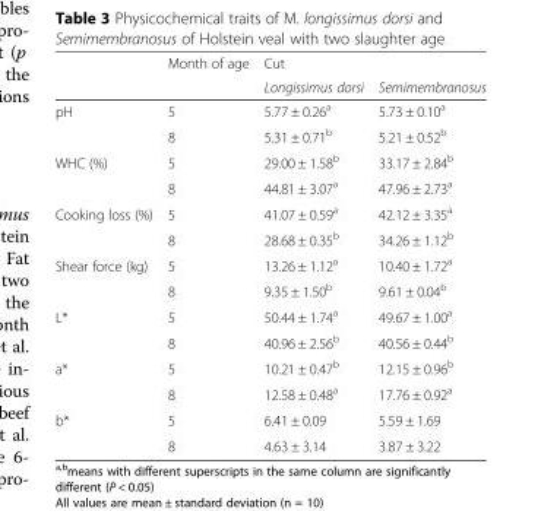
<table><thead><tr><td rowspan="2"></td><td rowspan="2">Month of age</td><td colspan="2">Cut</td></tr><tr><td>Longissimus dorsi</td><td>Semimembranosus</td></tr></thead><tbody><tr><td rowspan="2">pH</td><td>5</td><td>5.77 ± 0.26<sup>a</sup></td><td>5.73 ± 0.10<sup>a</sup></td></tr><tr><td>8</td><td>5.31 ± 0.71<sup>b</sup></td><td>5.21 ± 0.52<sup>b</sup></td></tr><tr><td rowspan="2">WHC (%)</td><td>5</td><td>29.00 ± 1.58<sup>b</sup></td><td>33.17 ± 2.84<sup>b</sup></td></tr><tr><td>8</td><td>44.81 ± 3.07<sup>a</sup></td><td>47.96 ± 2.73<sup>a</sup></td></tr><tr><td rowspan="2">Cooking loss (%)</td><td>5</td><td>41.07 ± 0.59<sup>a</sup></td><td>42.12 ± 3.35<sup>a</sup></td></tr><tr><td>8</td><td>28.68 ± 0.35<sup>b</sup></td><td>34.26 ± 1.12<sup>b</sup></td></tr><tr><td rowspan="2">Shear force (kg)</td><td>5</td><td>13.26 ± 1.12<sup>a</sup></td><td>10.40 ± 1.72<sup>a</sup></td></tr><tr><td>8</td><td>9.35 ± 1.50<sup>b</sup></td><td>9.61 ± 0.04<sup>b</sup></td></tr><tr><td rowspan="2">L*</td><td>5</td><td>50.44 ± 1.74<sup>a</sup></td><td>49.67 ± 1.00<sup>a</sup></td></tr><tr><td>8</td><td>40.96 ± 2.56<sup>b</sup></td><td>40.56 ± 0.44<sup>b</sup></td></tr><tr><td rowspan="2">a*</td><td>5</td><td>10.21 ± 0.47<sup>b</sup></td><td>12.15 ± 0.96<sup>b</sup></td></tr><tr><td>8</td><td>12.58 ± 0.48<sup>a</sup></td><td>17.76 ± 0.92<sup>a</sup></td></tr><tr><td rowspan="2">b*</td><td>5</td><td>6.41 ± 0.09</td><td>5.59 ± 1.69</td></tr><tr><td>8</td><td>4.63 ± 3.14</td><td>3.87 ± 3.22</td></tr></tbody></table>